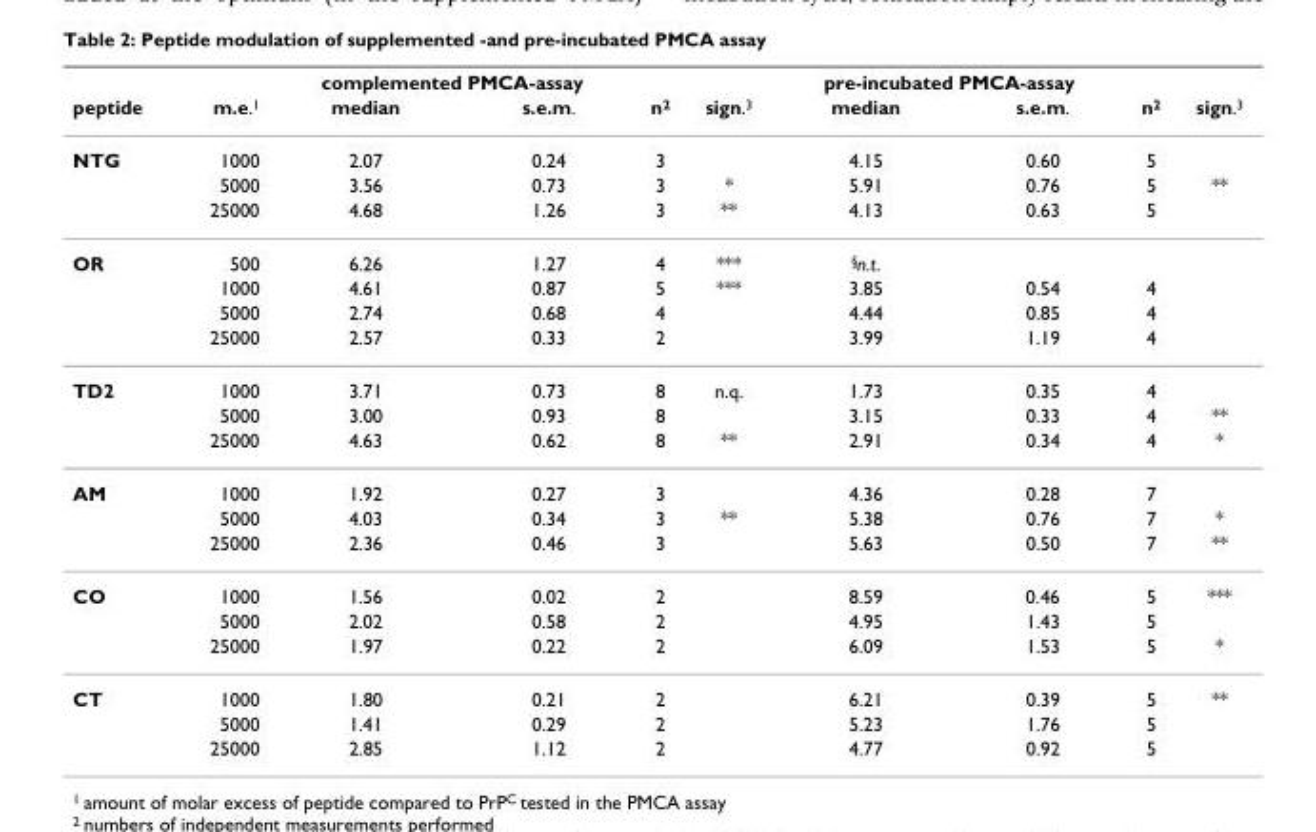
<table><thead><tr><td rowspan="2">peptide</td><td rowspan="2">m.e.<sup>1</sup></td><td colspan="2">complemented PMCA-assay</td><td rowspan="2">n<sup>2</sup></td><td rowspan="2">sign.<sup>3</sup></td><td colspan="2">pre-incubated PMCA-assay</td><td rowspan="2">n<sup>2</sup></td><td rowspan="2">sign.<sup>3</sup></td></tr><tr><td>median</td><td>s.e.m.</td><td>median</td><td>s.e.m.</td></tr></thead><tbody><tr><td rowspan="3">NTG</td><td>1000</td><td>2.07</td><td>0.24</td><td>3</td><td></td><td>4.15</td><td>0.60</td><td>5</td><td></td></tr><tr><td>5000</td><td>3.56</td><td>0.73</td><td>3</td><td>*</td><td>5.91</td><td>0.76</td><td>5</td><td>**</td></tr><tr><td>25000</td><td>4.68</td><td>1.26</td><td>3</td><td>**</td><td>4.13</td><td>0.63</td><td>5</td><td></td></tr><tr><td rowspan="4">OR</td><td>500</td><td>6.26</td><td>1.27</td><td>4</td><td>***</td><td><sup>§</sup>n.t.</td><td></td><td></td><td></td></tr><tr><td>1000</td><td>4.61</td><td>0.87</td><td>5</td><td>***</td><td>3.85</td><td>0.54</td><td>4</td><td></td></tr><tr><td>5000</td><td>2.74</td><td>0.68</td><td>4</td><td></td><td>4.44</td><td>0.85</td><td>4</td><td></td></tr><tr><td>25000</td><td>2.57</td><td>0.33</td><td>2</td><td></td><td>3.99</td><td>1.19</td><td>4</td><td></td></tr><tr><td rowspan="3">TD2</td><td>1000</td><td>3.71</td><td>0.73</td><td>8</td><td>n.q.</td><td>1.73</td><td>0.35</td><td>4</td><td></td></tr><tr><td>5000</td><td>3.00</td><td>0.93</td><td>8</td><td></td><td>3.15</td><td>0.33</td><td>4</td><td>**</td></tr><tr><td>25000</td><td>4.63</td><td>0.62</td><td>8</td><td>**</td><td>2.91</td><td>0.34</td><td>4</td><td>*</td></tr><tr><td rowspan="3">AM</td><td>1000</td><td>1.92</td><td>0.27</td><td>3</td><td></td><td>4.36</td><td>0.28</td><td>7</td><td></td></tr><tr><td>5000</td><td>4.03</td><td>0.34</td><td>3</td><td>**</td><td>5.38</td><td>0.76</td><td>7</td><td>*</td></tr><tr><td>25000</td><td>2.36</td><td>0.46</td><td>3</td><td></td><td>5.63</td><td>0.50</td><td>7</td><td>**</td></tr><tr><td rowspan="3">CO</td><td>1000</td><td>1.56</td><td>0.02</td><td>2</td><td></td><td>8.59</td><td>0.46</td><td>5</td><td>***</td></tr><tr><td>5000</td><td>2.02</td><td>0.58</td><td>2</td><td></td><td>4.95</td><td>1.43</td><td>5</td><td></td></tr><tr><td>25000</td><td>1.97</td><td>0.22</td><td>2</td><td></td><td>6.09</td><td>1.53</td><td>5</td><td>*</td></tr><tr><td rowspan="3">CT</td><td>1000</td><td>1.80</td><td>0.21</td><td>2</td><td></td><td>6.21</td><td>0.39</td><td>5</td><td>**</td></tr><tr><td>5000</td><td>1.41</td><td>0.29</td><td>2</td><td></td><td>5.23</td><td>1.76</td><td>5</td><td></td></tr><tr><td>25000</td><td>2.85</td><td>1.12</td><td>2</td><td></td><td>4.77</td><td>0.92</td><td>5</td><td></td></tr></tbody></table>